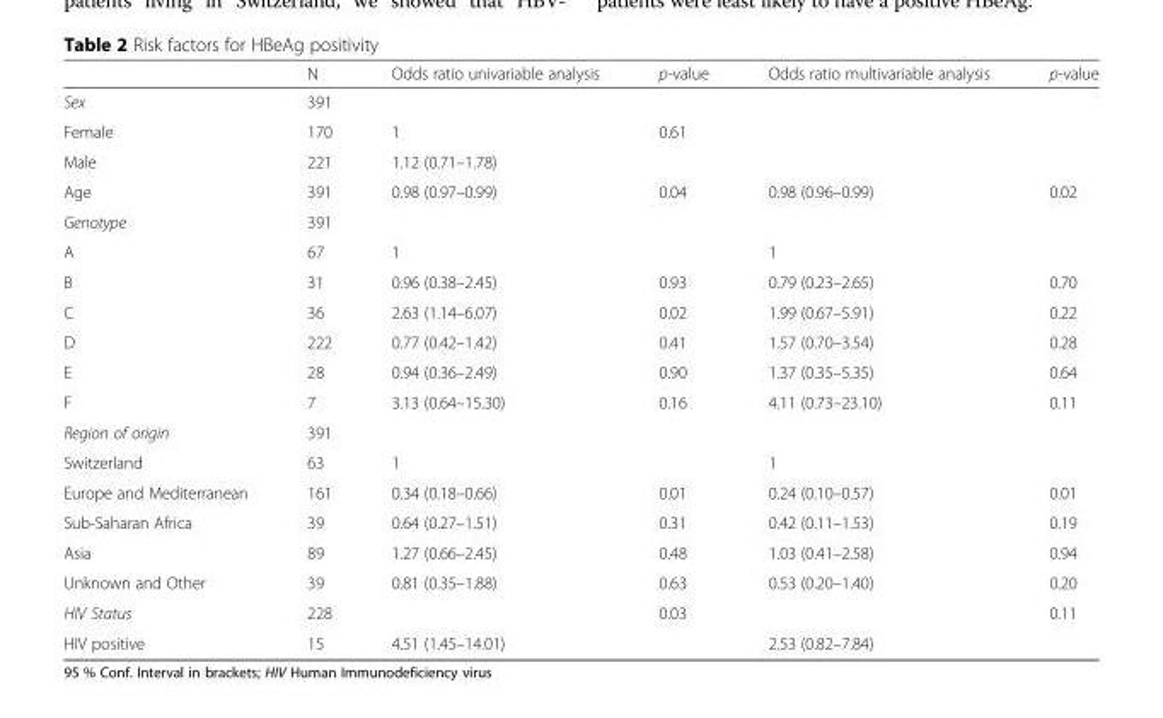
<table><thead><tr><td></td><td>N</td><td>Odds ratio univariable analysis</td><td>p-value</td><td>Odds ratio multivariable analysis</td><td>p-value</td></tr></thead><tbody><tr><td>Sex</td><td>391</td><td></td><td></td><td></td><td></td></tr><tr><td>Female</td><td>170</td><td>1</td><td>0.61</td><td></td><td></td></tr><tr><td>Male</td><td>221</td><td>1.12 (0.71–1.78)</td><td></td><td></td><td></td></tr><tr><td>Age</td><td>391</td><td>0.98 (0.97–0.99)</td><td>0.04</td><td>0.98 (0.96–0.99)</td><td>0.02</td></tr><tr><td>Genotype</td><td>391</td><td></td><td></td><td></td><td></td></tr><tr><td>A</td><td>67</td><td>1</td><td></td><td>1</td><td></td></tr><tr><td>B</td><td>31</td><td>0.96 (0.38–2.45)</td><td>0.93</td><td>0.79 (0.23–2.65)</td><td>0.70</td></tr><tr><td>C</td><td>36</td><td>2.63 (1.14–6.07)</td><td>0.02</td><td>1.99 (0.67–5.91)</td><td>0.22</td></tr><tr><td>D</td><td>222</td><td>0.77 (0.42–1.42)</td><td>0.41</td><td>1.57 (0.70–3.54)</td><td>0.28</td></tr><tr><td>E</td><td>28</td><td>0.94 (0.36–2.49)</td><td>0.90</td><td>1.37 (0.35–5.35)</td><td>0.64</td></tr><tr><td>F</td><td>7</td><td>3.13 (0.64–15.30)</td><td>0.16</td><td>4.11 (0.73–23.10)</td><td>0.11</td></tr><tr><td>Region of origin</td><td>391</td><td></td><td></td><td></td><td></td></tr><tr><td>Switzerland</td><td>63</td><td>1</td><td></td><td>1</td><td></td></tr><tr><td>Europe and Mediterranean</td><td>161</td><td>0.34 (0.18–0.66)</td><td>0.01</td><td>0.24 (0.10–0.57)</td><td>0.01</td></tr><tr><td>Sub-Saharan Africa</td><td>39</td><td>0.64 (0.27–1.51)</td><td>0.31</td><td>0.42 (0.11–1.53)</td><td>0.19</td></tr><tr><td>Asia</td><td>89</td><td>1.27 (0.66–2.45)</td><td>0.48</td><td>1.03 (0.41–2.58)</td><td>0.94</td></tr><tr><td>Unknown and Other</td><td>39</td><td>0.81 (0.35–1.88)</td><td>0.63</td><td>0.53 (0.20–1.40)</td><td>0.20</td></tr><tr><td>HIV Status</td><td>228</td><td></td><td>0.03</td><td></td><td>0.11</td></tr><tr><td>HIV positive</td><td>15</td><td>4.51 (1.45–14.01)</td><td></td><td>2.53 (0.82–7.84)</td><td></td></tr></tbody></table>